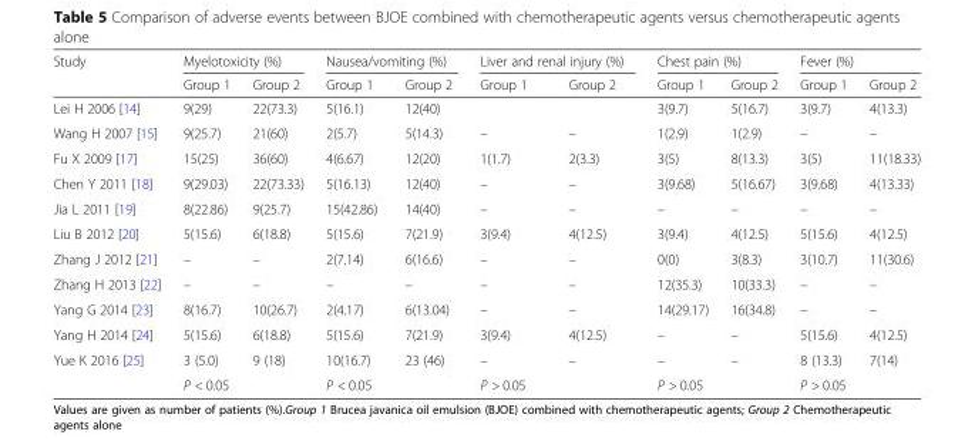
<table><thead><tr><td rowspan="2">Study</td><td colspan="2">Myelotoxicity (%)</td><td colspan="2">Nausea/vomiting (%)</td><td colspan="2">Liver and renal injury (%)</td><td colspan="2">Chest pain (%)</td><td colspan="2">Fever (%)</td></tr><tr><td>Group 1</td><td>Group 2</td><td>Group 1</td><td>Group 2</td><td>Group 1</td><td>Group 2</td><td>Group 1</td><td>Group 2</td><td>Group 1</td><td>Group 2</td></tr></thead><tbody><tr><td>Lei H 2006 [14]</td><td>9(29)</td><td>22(73.3)</td><td>5(16.1)</td><td>12(40)</td><td></td><td></td><td>3(9.7)</td><td>5(16.7)</td><td>3(9.7)</td><td>4(13.3)</td></tr><tr><td>Wang H 2007 [15]</td><td>9(25.7)</td><td>21(60)</td><td>2(5.7)</td><td>5(14.3)</td><td>–</td><td>–</td><td>1(2.9)</td><td>1(2.9)</td><td>–</td><td>–</td></tr><tr><td>Fu X 2009 [17]</td><td>15(25)</td><td>36(60)</td><td>4(6.67)</td><td>12(20)</td><td>1(1.7)</td><td>2(3.3)</td><td>3(5)</td><td>8(13.3)</td><td>3(5)</td><td>11(18.33)</td></tr><tr><td>Chen Y 2011 [18]</td><td>9(29.03)</td><td>22(73.33)</td><td>5(16.13)</td><td>12(40)</td><td>–</td><td>–</td><td>3(9.68)</td><td>5(16.67)</td><td>3(9.68)</td><td>4(13.33)</td></tr><tr><td>Jia L 2011 [19]</td><td>8(22.86)</td><td>9(25.7)</td><td>15(42.86)</td><td>14(40)</td><td>–</td><td>–</td><td>–</td><td>–</td><td>–</td><td>–</td></tr><tr><td>Liu B 2012 [20]</td><td>5(15.6)</td><td>6(18.8)</td><td>5(15.6)</td><td>7(21.9)</td><td>3(9.4)</td><td>4(12.5)</td><td>3(9.4)</td><td>4(12.5)</td><td>5(15.6)</td><td>4(12.5)</td></tr><tr><td>Zhang J 2012 [21]</td><td>–</td><td>–</td><td>2(7.14)</td><td>6(16.6)</td><td>–</td><td>–</td><td>0(0)</td><td>3(8.3)</td><td>3(10.7)</td><td>11(30.6)</td></tr><tr><td>Zhang H 2013 [22]</td><td>–</td><td>–</td><td>–</td><td>–</td><td>–</td><td>–</td><td>12(35.3)</td><td>10(33.3)</td><td>–</td><td>–</td></tr><tr><td>Yang G 2014 [23]</td><td>8(16.7)</td><td>10(26.7)</td><td>2(4.17)</td><td>6(13.04)</td><td>–</td><td>–</td><td>14(29.17)</td><td>16(34.8)</td><td>–</td><td>–</td></tr><tr><td>Yang H 2014 [24]</td><td>5(15.6)</td><td>6(18.8)</td><td>5(15.6)</td><td>7(21.9)</td><td>3(9.4)</td><td>4(12.5)</td><td>–</td><td>–</td><td>5(15.6)</td><td>4(12.5)</td></tr><tr><td rowspan="2">Yue K 2016 [25]</td><td>3 (5.0)</td><td>9 (18)</td><td>10(16.7)</td><td>23 (46)</td><td>–</td><td>–</td><td>–</td><td>–</td><td>8 (13.3)</td><td>7(14)</td></tr><tr><td colspan="2">P &lt; 0.05</td><td colspan="2">P &lt; 0.05</td><td colspan="2">P &gt; 0.05</td><td colspan="2">P &gt; 0.05</td><td colspan="2">P &gt; 0.05</td></tr></tbody></table>